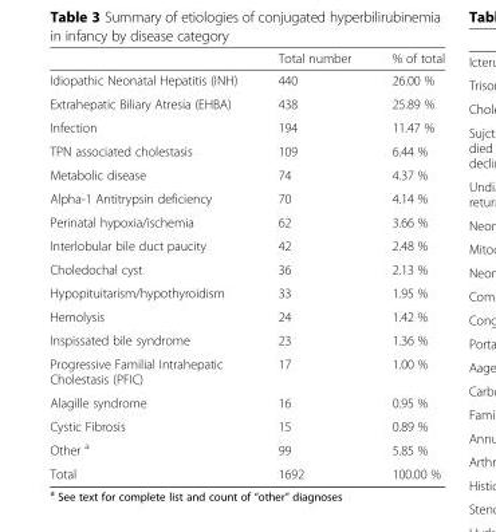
<table><thead><tr><td></td><td>Total number</td><td>% of total</td></tr></thead><tbody><tr><td>Idiopathic Neonatal Hepatitis (INH)</td><td>440</td><td>26.00 %</td></tr><tr><td>Extrahepatic Biliary Atresia (EHBA)</td><td>438</td><td>25.89 %</td></tr><tr><td>Infection</td><td>194</td><td>11.47 %</td></tr><tr><td>TPN associated cholestasis</td><td>109</td><td>6.44 %</td></tr><tr><td>Metabolic disease</td><td>74</td><td>4.37 %</td></tr><tr><td>Alpha-1 Antitrypsin deficiency</td><td>70</td><td>4.14 %</td></tr><tr><td>Perinatal hypoxia/ischemia</td><td>62</td><td>3.66 %</td></tr><tr><td>Interlobular bile duct paucity</td><td>42</td><td>2.48 %</td></tr><tr><td>Choledochal cyst</td><td>36</td><td>2.13 %</td></tr><tr><td>Hypopituitarism/hypothyroidism</td><td>33</td><td>1.95 %</td></tr><tr><td>Hemolysis</td><td>24</td><td>1.42 %</td></tr><tr><td>Inspissated bile syndrome</td><td>23</td><td>1.36 %</td></tr><tr><td>Progressive Familial Intrahepatic Cholestasis (PFIC)</td><td>17</td><td>1.00 %</td></tr><tr><td>Alagille syndrome</td><td>16</td><td>0.95 %</td></tr><tr><td>Cystic Fibrosis</td><td>15</td><td>0.89 %</td></tr><tr><td>Other <sup>a</sup></td><td>99</td><td>5.85 %</td></tr><tr><td>Total</td><td>1692</td><td>100.00 %</td></tr></tbody></table>